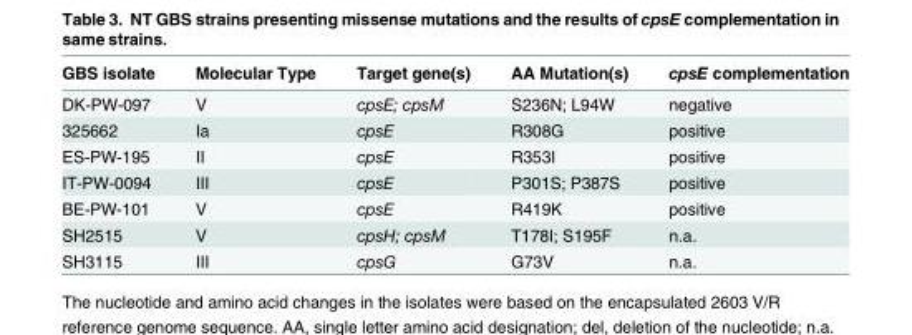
<table><thead><tr><td>GBS isolate</td><td>Molecular Type</td><td>Target gene(s)</td><td>AA Mutation(s)</td><td>cpsE complementation</td></tr></thead><tbody><tr><td>DK-PW-097</td><td>V</td><td>cpsE; cpsM</td><td>S236N; L94W</td><td>negative</td></tr><tr><td>325662</td><td>Ia</td><td>cpsE</td><td>R308G</td><td>positive</td></tr><tr><td>ES-PW-195</td><td>II</td><td>cpsE</td><td>R353I</td><td>positive</td></tr><tr><td>IT-PW-0094</td><td>III</td><td>cpsE</td><td>P301S; P387S</td><td>positive</td></tr><tr><td>BE-PW-101</td><td>V</td><td>cpsE</td><td>R419K</td><td>positive</td></tr><tr><td>SH2515</td><td>V</td><td>cpsH; cpsM</td><td>T178I; S195F</td><td>n.a.</td></tr><tr><td>SH3115</td><td>III</td><td>cpsG</td><td>G73V</td><td>n.a.</td></tr></tbody></table>